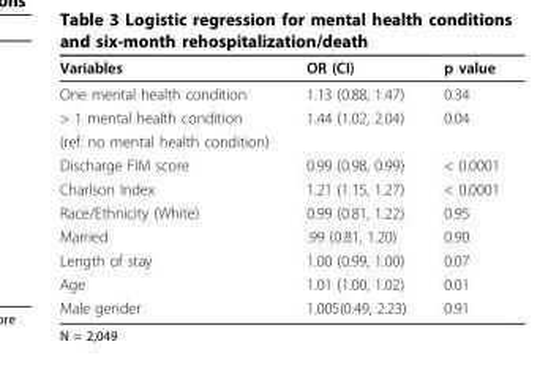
<table><thead><tr><td>Variables</td><td>OR (CI)</td><td>p value</td></tr></thead><tbody><tr><td>One mental health condition</td><td>1.13 (0.88, 1.47)</td><td>0.34</td></tr><tr><td>&gt; 1 mental health condition</td><td>1.44 (1.02, 2.04)</td><td>0.04</td></tr><tr><td colspan="3">(ref: no mental health condition)</td></tr><tr><td>Discharge FIM score</td><td>0.99 (0.98, 0.99)</td><td>&lt; 0.0001</td></tr><tr><td>Charlson Index</td><td>1.21 (1.15, 1.27)</td><td>&lt; 0.0001</td></tr><tr><td>Race/Ethnicity (White)</td><td>0.99 (0.81, 1.22)</td><td>0.95</td></tr><tr><td>Married</td><td>.99 (0.81, 1.20)</td><td>0.90</td></tr><tr><td>Length of stay</td><td>1.00 (0.99, 1.00)</td><td>0.07</td></tr><tr><td>Age</td><td>1.01 (1.00, 1.02)</td><td>0.01</td></tr><tr><td>Male gender</td><td>1.005(0.49, 2.23)</td><td>0.91</td></tr></tbody></table>